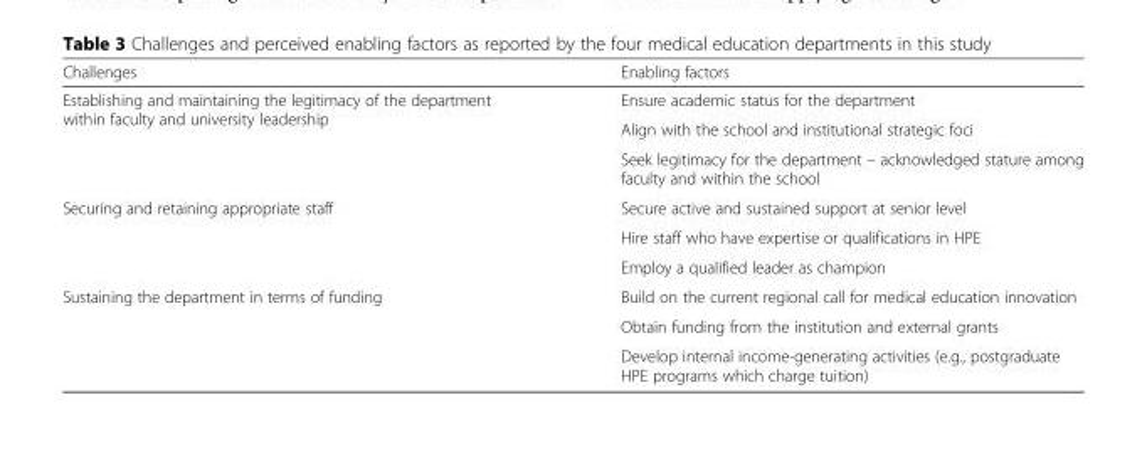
<table><thead><tr><td>Challenges</td><td>Enabling factors</td></tr></thead><tbody><tr><td rowspan="3">Establishing and maintaining the legitimacy of the department within faculty and university leadership</td><td>Ensure academic status for the department</td></tr><tr><td>Align with the school and institutional strategic foci</td></tr><tr><td>Seek legitimacy for the department – acknowledged stature among faculty and within the school</td></tr><tr><td rowspan="3">Securing and retaining appropriate staff</td><td>Secure active and sustained support at senior level</td></tr><tr><td>Hire staff who have expertise or qualifications in HPE</td></tr><tr><td>Employ a qualified leader as champion</td></tr><tr><td rowspan="3">Sustaining the department in terms of funding</td><td>Build on the current regional call for medical education innovation</td></tr><tr><td>Obtain funding from the institution and external grants</td></tr><tr><td>Develop internal income-generating activities (e.g., postgraduate HPE programs which charge tuition)</td></tr></tbody></table>